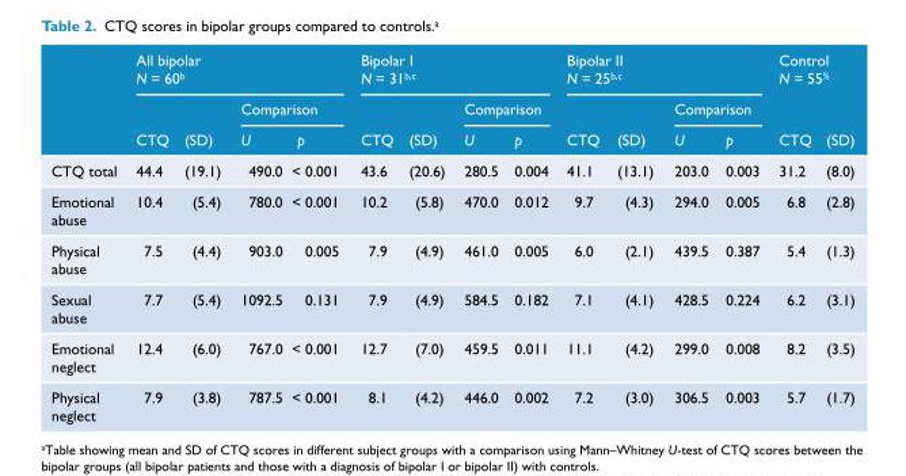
<table><thead><tr><td rowspan="3"></td><td colspan="4">All bipolar N = 60<sup>b</sup></td><td colspan="4">Bipolar I N = 31<sup>b,c</sup></td><td colspan="4">Bipolar II N = 25<sup>b,c</sup></td><td colspan="2">Control N = 55<sup>%</sup></td></tr><tr><td rowspan="2">CTQ</td><td rowspan="2">(SD)</td><td colspan="2">Comparison</td><td rowspan="2">CTQ</td><td rowspan="2">(SD)</td><td colspan="2">Comparison</td><td rowspan="2">CTQ</td><td rowspan="2">(SD)</td><td colspan="2">Comparison</td><td rowspan="2">CTQ</td><td rowspan="2">(SD)</td></tr><tr><td>U</td><td>p</td><td>U</td><td>p</td><td>U</td><td>p</td></tr></thead><tbody><tr><td>CTQ total</td><td>44.4</td><td>(19.1)</td><td>490.0</td><td>&lt; 0.001</td><td>43.6</td><td>(20.6)</td><td>280.5</td><td>0.004</td><td>41.1</td><td>(13.1)</td><td>203.0</td><td>0.003</td><td>31.2</td><td>(8.0)</td></tr><tr><td>Emotional abuse</td><td>10.4</td><td>(5.4)</td><td>780.0</td><td>&lt; 0.001</td><td>10.2</td><td>(5.8)</td><td>470.0</td><td>0.012</td><td>9.7</td><td>(4.3)</td><td>294.0</td><td>0.005</td><td>6.8</td><td>(2.8)</td></tr><tr><td>Physical abuse</td><td>7.5</td><td>(4.4)</td><td>903.0</td><td>0.005</td><td>7.9</td><td>(4.9)</td><td>461.0</td><td>0.005</td><td>6.0</td><td>(2.1)</td><td>439.5</td><td>0.387</td><td>5.4</td><td>(1.3)</td></tr><tr><td>Sexual abuse</td><td>7.7</td><td>(5.4)</td><td>1092.5</td><td>0.131</td><td>7.9</td><td>(4.9)</td><td>584.5</td><td>0.182</td><td>7.1</td><td>(4.1)</td><td>428.5</td><td>0.224</td><td>6.2</td><td>(3.1)</td></tr><tr><td>Emotional neglect</td><td>12.4</td><td>(6.0)</td><td>767.0</td><td>&lt; 0.001</td><td>12.7</td><td>(7.0)</td><td>459.5</td><td>0.011</td><td>11.1</td><td>(4.2)</td><td>299.0</td><td>0.008</td><td>8.2</td><td>(3.5)</td></tr><tr><td>Physical neglect</td><td>7.9</td><td>(3.8)</td><td>787.5</td><td>&lt; 0.001</td><td>8.1</td><td>(4.2)</td><td>446.0</td><td>0.002</td><td>7.2</td><td>(3.0)</td><td>306.5</td><td>0.003</td><td>5.7</td><td>(1.7)</td></tr></tbody></table>